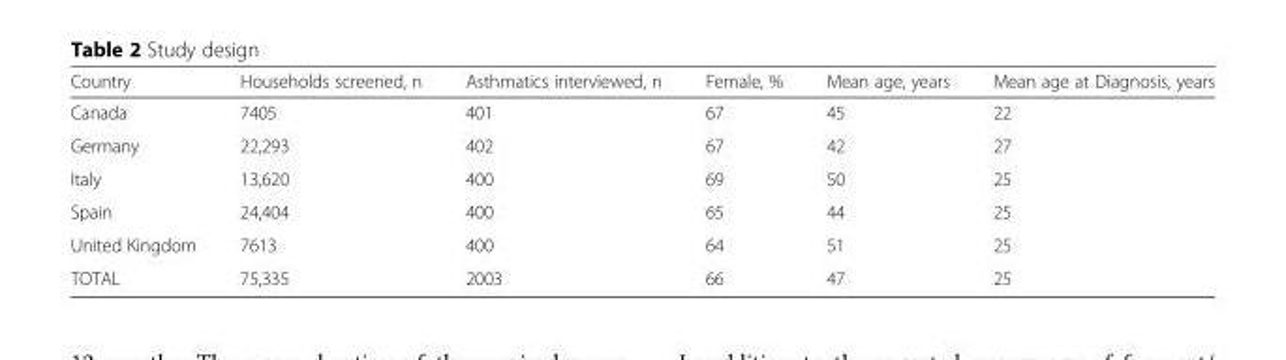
<table><thead><tr><td>Country</td><td>Households screened, n</td><td>Asthmatics interviewed, n</td><td>Female, %</td><td>Mean age, years</td><td>Mean age at Diagnosis, years</td></tr></thead><tbody><tr><td>Canada</td><td>7405</td><td>401</td><td>67</td><td>45</td><td>22</td></tr><tr><td>Germany</td><td>22,293</td><td>402</td><td>67</td><td>42</td><td>27</td></tr><tr><td>Italy</td><td>13,620</td><td>400</td><td>69</td><td>50</td><td>25</td></tr><tr><td>Spain</td><td>24,404</td><td>400</td><td>65</td><td>44</td><td>25</td></tr><tr><td>United Kingdom</td><td>7613</td><td>400</td><td>64</td><td>51</td><td>25</td></tr><tr><td>TOTAL</td><td>75,335</td><td>2003</td><td>66</td><td>47</td><td>25</td></tr></tbody></table>